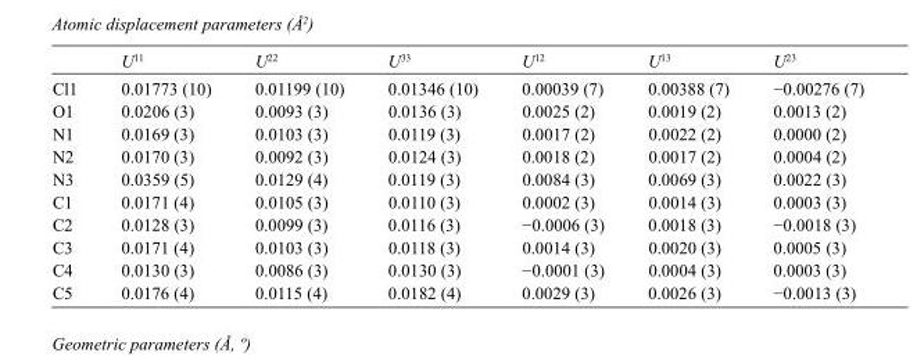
<table><thead><tr><td></td><td>U<sup>11</sup></td><td>U<sup>22</sup></td><td>U<sup>33</sup></td><td>U<sup>12</sup></td><td>U<sup>13</sup></td><td>U<sup>23</sup></td></tr></thead><tbody><tr><td>Cl1</td><td>0.01773 (10)</td><td>0.01199 (10)</td><td>0.01346 (10)</td><td>0.00039 (7)</td><td>0.00388 (7)</td><td>−0.00276 (7)</td></tr><tr><td>O1</td><td>0.0206 (3)</td><td>0.0093 (3)</td><td>0.0136 (3)</td><td>0.0025 (2)</td><td>0.0019 (2)</td><td>0.0013 (2)</td></tr><tr><td>N1</td><td>0.0169 (3)</td><td>0.0103 (3)</td><td>0.0119 (3)</td><td>0.0017 (2)</td><td>0.0022 (2)</td><td>0.0000 (2)</td></tr><tr><td>N2</td><td>0.0170 (3)</td><td>0.0092 (3)</td><td>0.0124 (3)</td><td>0.0018 (2)</td><td>0.0017 (2)</td><td>0.0004 (2)</td></tr><tr><td>N3</td><td>0.0359 (5)</td><td>0.0129 (4)</td><td>0.0119 (3)</td><td>0.0084 (3)</td><td>0.0069 (3)</td><td>0.0022 (3)</td></tr><tr><td>C1</td><td>0.0171 (4)</td><td>0.0105 (3)</td><td>0.0110 (3)</td><td>0.0002 (3)</td><td>0.0014 (3)</td><td>0.0003 (3)</td></tr><tr><td>C2</td><td>0.0128 (3)</td><td>0.0099 (3)</td><td>0.0116 (3)</td><td>−0.0006 (3)</td><td>0.0018 (3)</td><td>−0.0018 (3)</td></tr><tr><td>C3</td><td>0.0171 (4)</td><td>0.0103 (3)</td><td>0.0118 (3)</td><td>0.0014 (3)</td><td>0.0020 (3)</td><td>0.0005 (3)</td></tr><tr><td>C4</td><td>0.0130 (3)</td><td>0.0086 (3)</td><td>0.0130 (3)</td><td>−0.0001 (3)</td><td>0.0004 (3)</td><td>0.0003 (3)</td></tr><tr><td>C5</td><td>0.0176 (4)</td><td>0.0115 (4)</td><td>0.0182 (4)</td><td>0.0029 (3)</td><td>0.0026 (3)</td><td>−0.0013 (3)</td></tr></tbody></table>